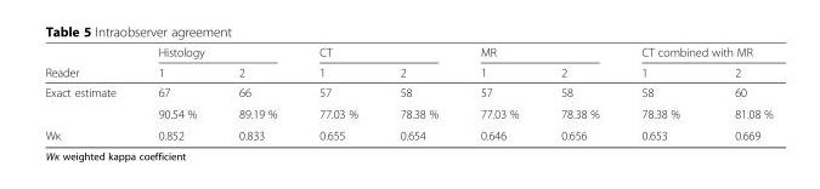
<table><thead><tr><td rowspan="2">Reader</td><td colspan="2">Histology</td><td colspan="2">CT</td><td colspan="2">MR</td><td colspan="2">CT combined with MR</td></tr><tr><td>1</td><td>2</td><td>1</td><td>2</td><td>1</td><td>2</td><td>1</td><td>2</td></tr></thead><tbody><tr><td rowspan="2">Exact estimate</td><td>67</td><td>66</td><td>57</td><td>58</td><td>57</td><td>58</td><td>58</td><td>60</td></tr><tr><td>90.54 %</td><td>89.19 %</td><td>77.03 %</td><td>78.38 %</td><td>77.03 %</td><td>78.38 %</td><td>78.38 %</td><td>81.08 %</td></tr><tr><td>Wκ</td><td>0.852</td><td>0.833</td><td>0.655</td><td>0.654</td><td>0.646</td><td>0.656</td><td>0.653</td><td>0.669</td></tr></tbody></table>